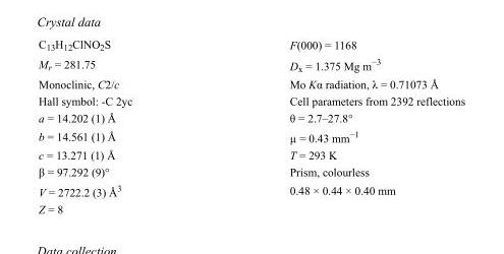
<table><tbody><tr><td>C<sub>13</sub>H<sub>12</sub>ClNO<sub>2</sub>S</td><td>F(000) = 1168</td></tr><tr><td>M<sub>r</sub> = 281.75</td><td>D<sub>x</sub> = 1.375 Mg m<sup>−3</sup></td></tr><tr><td>Monoclinic, C2/c</td><td>Mo Kα radiation, λ = 0.71073 Å</td></tr><tr><td>Hall symbol: -C 2yc</td><td>Cell parameters from 2392 reflections</td></tr><tr><td>a = 14.202 (1) Å</td><td>θ = 2.7–27.8°</td></tr><tr><td>b = 14.561 (1) Å</td><td>µ = 0.43 mm<sup>−1</sup></td></tr><tr><td>c = 13.271 (1) Å</td><td>T = 293 K</td></tr><tr><td>β = 97.292 (9)°</td><td>Prism, colourless</td></tr><tr><td>V = 2722.2 (3) Å<sup>3</sup></td><td>0.48 × 0.44 × 0.40 mm</td></tr><tr><td>Z = 8</td><td></td></tr></tbody></table>